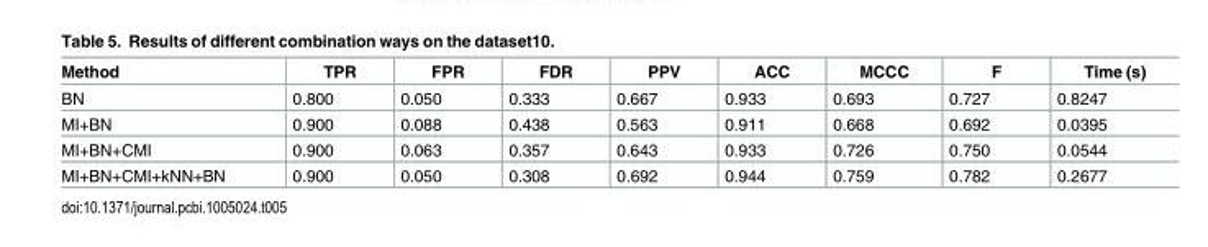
<table><thead><tr><td>Method</td><td>TPR</td><td>FPR</td><td>FDR</td><td>PPV</td><td>ACC</td><td>MCCC</td><td>F</td><td>Time (s)</td></tr></thead><tbody><tr><td>BN</td><td>0.800</td><td>0.050</td><td>0.333</td><td>0.667</td><td>0.933</td><td>0.693</td><td>0.727</td><td>0.8247</td></tr><tr><td>MI+BN</td><td>0.900</td><td>0.088</td><td>0.438</td><td>0.563</td><td>0.911</td><td>0.668</td><td>0.692</td><td>0.0395</td></tr><tr><td>MI+BN+CMI</td><td>0.900</td><td>0.063</td><td>0.357</td><td>0.643</td><td>0.933</td><td>0.726</td><td>0.750</td><td>0.0544</td></tr><tr><td>MI+BN+CMI+kNN+BN</td><td>0.900</td><td>0.050</td><td>0.308</td><td>0.692</td><td>0.944</td><td>0.759</td><td>0.782</td><td>0.2677</td></tr></tbody></table>